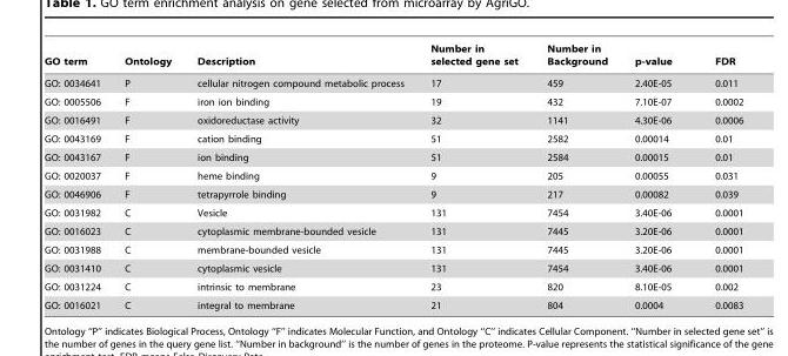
<table><thead><tr><td>GO term</td><td>Ontology</td><td>Description</td><td>Number in selected gene set</td><td>Number in Background</td><td>p-value</td><td>FDR</td></tr></thead><tbody><tr><td>GO: 0034641</td><td>P</td><td>cellular nitrogen compound metabolic process</td><td>17</td><td>459</td><td>2.40E-05</td><td>0.011</td></tr><tr><td>GO: 0005506</td><td>F</td><td>iron ion binding</td><td>19</td><td>432</td><td>7.10E-07</td><td>0.0002</td></tr><tr><td>GO: 0016491</td><td>F</td><td>oxidoreductase activity</td><td>32</td><td>1141</td><td>4.30E-06</td><td>0.0006</td></tr><tr><td>GO: 0043169</td><td>F</td><td>cation binding</td><td>51</td><td>2582</td><td>0.00014</td><td>0.01</td></tr><tr><td>GO: 0043167</td><td>F</td><td>ion binding</td><td>51</td><td>2584</td><td>0.00015</td><td>0.01</td></tr><tr><td>GO: 0020037</td><td>F</td><td>heme binding</td><td>9</td><td>205</td><td>0.00055</td><td>0.031</td></tr><tr><td>GO: 0046906</td><td>F</td><td>tetrapyrrole binding</td><td>9</td><td>217</td><td>0.00082</td><td>0.039</td></tr><tr><td>GO: 0031982</td><td>C</td><td>Vesicle</td><td>131</td><td>7454</td><td>3.40E-06</td><td>0.0001</td></tr><tr><td>GO: 0016023</td><td>C</td><td>cytoplasmic membrane-bounded vesicle</td><td>131</td><td>7445</td><td>3.20E-06</td><td>0.0001</td></tr><tr><td>GO: 0031988</td><td>C</td><td>membrane-bounded vesicle</td><td>131</td><td>7445</td><td>3.20E-06</td><td>0.0001</td></tr><tr><td>GO: 0031410</td><td>C</td><td>cytoplasmic vesicle</td><td>131</td><td>7454</td><td>3.40E-06</td><td>0.0001</td></tr><tr><td>GO: 0031224</td><td>C</td><td>intrinsic to membrane</td><td>23</td><td>820</td><td>8.10E-05</td><td>0.002</td></tr><tr><td>GO: 0016021</td><td>C</td><td>integral to membrane</td><td>21</td><td>804</td><td>0.0004</td><td>0.0083</td></tr></tbody></table>